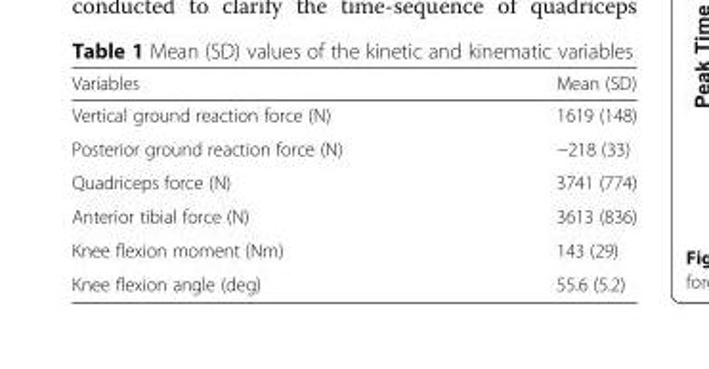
<table><thead><tr><td>Variables</td><td>Mean (SD)</td></tr></thead><tbody><tr><td>Vertical ground reaction force (N)</td><td>1619 (148)</td></tr><tr><td>Posterior ground reaction force (N)</td><td>−218 (33)</td></tr><tr><td>Quadriceps force (N)</td><td>3741 (774)</td></tr><tr><td>Anterior tibial force (N)</td><td>3613 (836)</td></tr><tr><td>Knee flexion moment (Nm)</td><td>143 (29)</td></tr><tr><td>Knee flexion angle (deg)</td><td>55.6 (5.2)</td></tr></tbody></table>